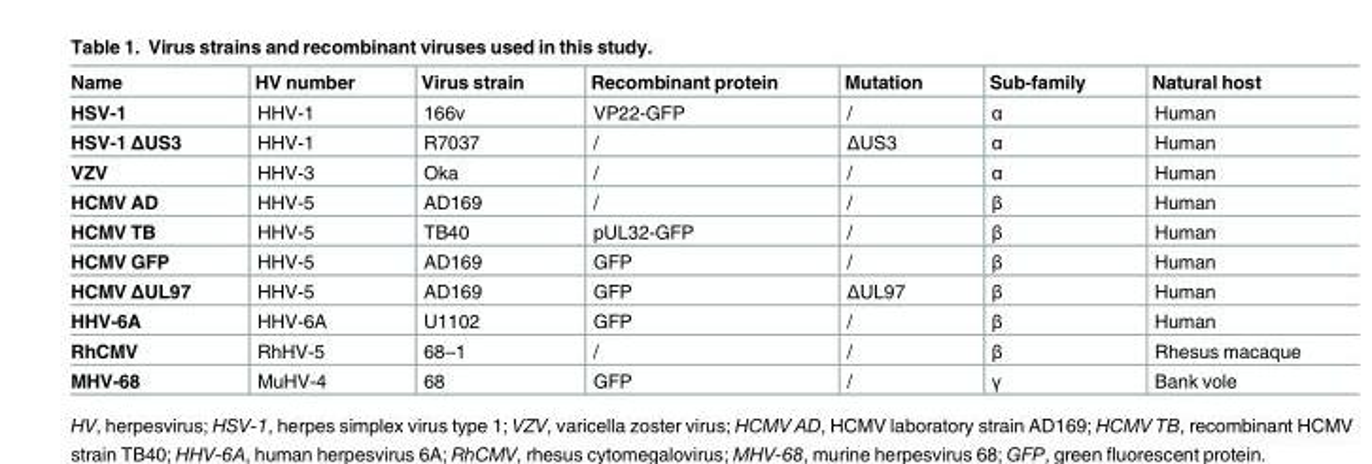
<table><thead><tr><td>Name</td><td>HV number</td><td>Virus strain</td><td>Recombinant protein</td><td>Mutation</td><td>Sub-family</td><td>Natural host</td></tr></thead><tbody><tr><td>HSV-1</td><td>HHV-1</td><td>166v</td><td>VP22-GFP</td><td>/</td><td>α</td><td>Human</td></tr><tr><td>HSV-1 ΔUS3</td><td>HHV-1</td><td>R7037</td><td>/</td><td>ΔUS3</td><td>α</td><td>Human</td></tr><tr><td>VZV</td><td>HHV-3</td><td>Oka</td><td>/</td><td>/</td><td>α</td><td>Human</td></tr><tr><td>HCMV AD</td><td>HHV-5</td><td>AD169</td><td>/</td><td>/</td><td>β</td><td>Human</td></tr><tr><td>HCMV TB</td><td>HHV-5</td><td>TB40</td><td>pUL32-GFP</td><td>/</td><td>β</td><td>Human</td></tr><tr><td>HCMV GFP</td><td>HHV-5</td><td>AD169</td><td>GFP</td><td>/</td><td>β</td><td>Human</td></tr><tr><td>HCMV ΔUL97</td><td>HHV-5</td><td>AD169</td><td>GFP</td><td>ΔUL97</td><td>β</td><td>Human</td></tr><tr><td>HHV-6A</td><td>HHV-6A</td><td>U1102</td><td>GFP</td><td>/</td><td>β</td><td>Human</td></tr><tr><td>RhCMV</td><td>RhHV-5</td><td>68–1</td><td>/</td><td>/</td><td>β</td><td>Rhesus macaque</td></tr><tr><td>MHV-68</td><td>MuHV-4</td><td>68</td><td>GFP</td><td>/</td><td>γ</td><td>Bank vole</td></tr></tbody></table>